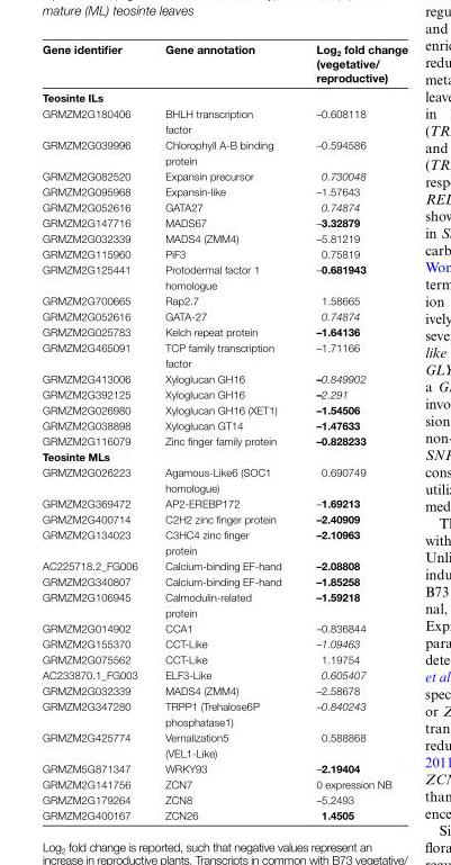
<table><thead><tr><td>Gene identifier</td><td>Gene annotation</td><td>Log<sub>2</sub> fold change (vegetative/ reproductive)</td></tr></thead><tbody><tr><td colspan="3">Teosinte ILs</td></tr><tr><td>GRMZM2G180406</td><td>BHLH transcription factor</td><td>–0.608118</td></tr><tr><td>GRMZM2G039996</td><td>Chlorophyll A-B binding protein</td><td>–0.594586</td></tr><tr><td>GRMZM2G082520</td><td>Expansin precursor</td><td>0.730048</td></tr><tr><td>GRMZM2G095968</td><td>Expansin-like</td><td>–1.57643</td></tr><tr><td>GRMZM2G052616</td><td>GATA27</td><td>0.74874</td></tr><tr><td>GRMZM2G147716</td><td>MADS67</td><td>–3.32879</td></tr><tr><td>GRMZM2G032339</td><td>MADS4 (ZMM4)</td><td>–5.81219</td></tr><tr><td>GRMZM2G115960</td><td>PiF3</td><td>0.75819</td></tr><tr><td>GRMZM2G125441</td><td>Protodermal factor 1 homologue</td><td>–0.681943</td></tr><tr><td>GRMZM2G700665</td><td>Rap2.7</td><td>1.58665</td></tr><tr><td>GRMZM2G052616</td><td>GATA-27</td><td>0.74874</td></tr><tr><td>GRMZM2G025783</td><td>Kelch repeat protein</td><td>–1.64136</td></tr><tr><td>GRMZM2G465091</td><td>TCP family transcription factor</td><td>–1.71166</td></tr><tr><td>GRMZM2G413006</td><td>Xyloglucan GH16</td><td>–0.849902</td></tr><tr><td>GRMZM2G392125</td><td>Xyloglucan GH16</td><td>–2.291</td></tr><tr><td>GRMZM2G026980</td><td>Xyloglucan GH16 (XET1)</td><td>–1.54506</td></tr><tr><td>GRMZM2G038898</td><td>Xyloglucan GT14</td><td>–1.47633</td></tr><tr><td>GRMZM2G116079</td><td>Zinc finger family protein</td><td>–0.828233</td></tr><tr><td colspan="3">Teosinte MLs</td></tr><tr><td>GRMZM2G026223</td><td>Agamous-Like6 (SOC1 homologue)</td><td>0.690749</td></tr><tr><td>GRMZM2G369472</td><td>AP2-EREBP172</td><td>–1.69213</td></tr><tr><td>GRMZM2G400714</td><td>C2H2 zinc finger protein</td><td>–2.40909</td></tr><tr><td>GRMZM2G134023</td><td>C3HC4 zinc finger protein</td><td>–2.10963</td></tr><tr><td>AC225718.2_FG006</td><td>Calcium-binding EF-hand</td><td>–2.08808</td></tr><tr><td>GRMZM2G340807</td><td>Calcium-binding EF-hand</td><td>–1.85258</td></tr><tr><td>GRMZM2G106945</td><td>Calmodulin-related protein</td><td>–1.59218</td></tr><tr><td>GRMZM2G014902</td><td>CCA1</td><td>–0.836844</td></tr><tr><td>GRMZM2G155370</td><td>CCT-Like</td><td>–1.09463</td></tr><tr><td>GRMZM2G075562</td><td>CCT-Like</td><td>1.19754</td></tr><tr><td>AC233870.1_FG003</td><td>ELF3-Like</td><td>0.605407</td></tr><tr><td>GRMZM2G032339</td><td>MADS4 (ZMM4)</td><td>–2.58678</td></tr><tr><td>GRMZM2G347280</td><td>TRPP1 (Trehalose6P phosphatase1)</td><td>–0.840243</td></tr><tr><td>GRMZM2G425774</td><td>Vernalization5 (VEL1-Like)</td><td>0.588868</td></tr><tr><td>GRMZM5G871347</td><td>WRKY93</td><td>–2.19404</td></tr><tr><td>GRMZM2G141756</td><td>ZCN7</td><td>0 expression NB</td></tr><tr><td>GRMZM2G179264</td><td>ZCN8</td><td>–5.2493</td></tr><tr><td>GRMZM2G400167</td><td>ZCN26</td><td>1.4505</td></tr></tbody></table>